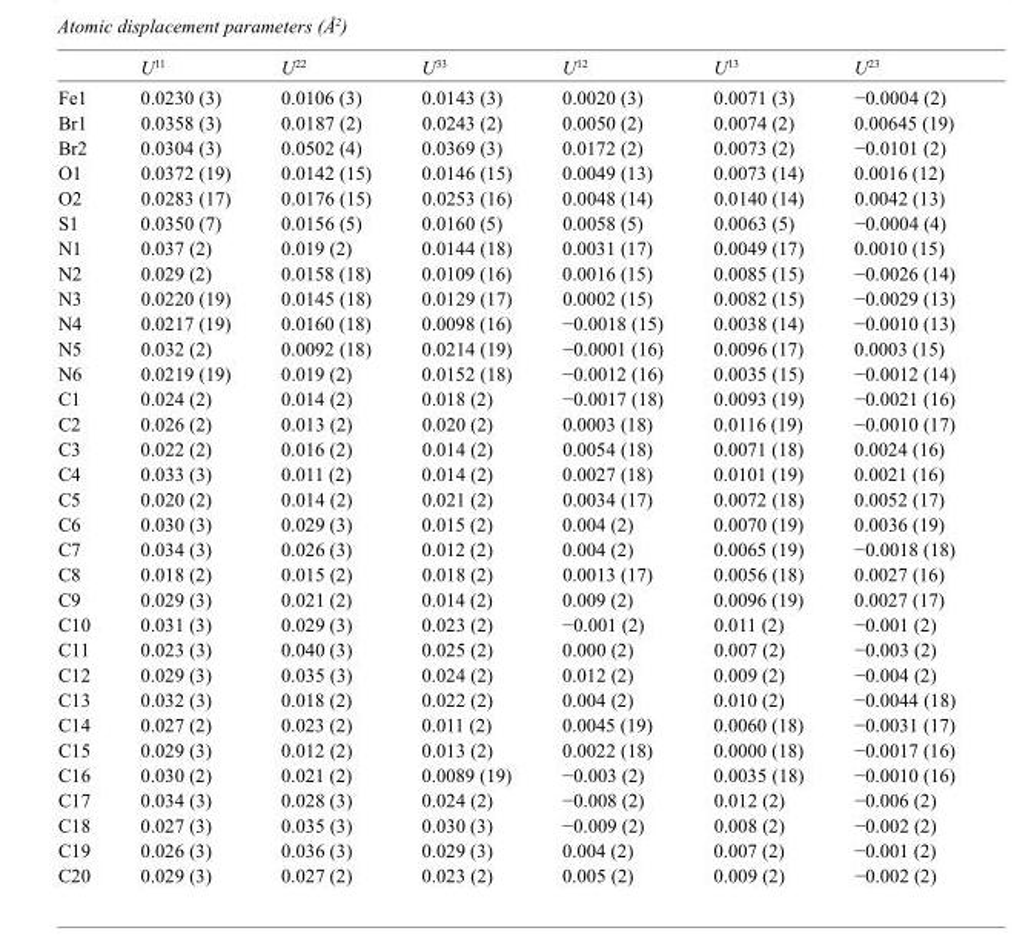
<table><thead><tr><td></td><td>U<sup>11</sup></td><td>U<sup>22</sup></td><td>U<sup>33</sup></td><td>U<sup>12</sup></td><td>U<sup>13</sup></td><td>U<sup>23</sup></td></tr></thead><tbody><tr><td>Fe1</td><td>0.0230 (3)</td><td>0.0106 (3)</td><td>0.0143 (3)</td><td>0.0020 (3)</td><td>0.0071 (3)</td><td>−0.0004 (2)</td></tr><tr><td>Br1</td><td>0.0358 (3)</td><td>0.0187 (2)</td><td>0.0243 (2)</td><td>0.0050 (2)</td><td>0.0074 (2)</td><td>0.00645 (19)</td></tr><tr><td>Br2</td><td>0.0304 (3)</td><td>0.0502 (4)</td><td>0.0369 (3)</td><td>0.0172 (2)</td><td>0.0073 (2)</td><td>−0.0101 (2)</td></tr><tr><td>O1</td><td>0.0372 (19)</td><td>0.0142 (15)</td><td>0.0146 (15)</td><td>0.0049 (13)</td><td>0.0073 (14)</td><td>0.0016 (12)</td></tr><tr><td>O2</td><td>0.0283 (17)</td><td>0.0176 (15)</td><td>0.0253 (16)</td><td>0.0048 (14)</td><td>0.0140 (14)</td><td>0.0042 (13)</td></tr><tr><td>S1</td><td>0.0350 (7)</td><td>0.0156 (5)</td><td>0.0160 (5)</td><td>0.0058 (5)</td><td>0.0063 (5)</td><td>−0.0004 (4)</td></tr><tr><td>N1</td><td>0.037 (2)</td><td>0.019 (2)</td><td>0.0144 (18)</td><td>0.0031 (17)</td><td>0.0049 (17)</td><td>0.0010 (15)</td></tr><tr><td>N2</td><td>0.029 (2)</td><td>0.0158 (18)</td><td>0.0109 (16)</td><td>0.0016 (15)</td><td>0.0085 (15)</td><td>−0.0026 (14)</td></tr><tr><td>N3</td><td>0.0220 (19)</td><td>0.0145 (18)</td><td>0.0129 (17)</td><td>0.0002 (15)</td><td>0.0082 (15)</td><td>−0.0029 (13)</td></tr><tr><td>N4</td><td>0.0217 (19)</td><td>0.0160 (18)</td><td>0.0098 (16)</td><td>−0.0018 (15)</td><td>0.0038 (14)</td><td>−0.0010 (13)</td></tr><tr><td>N5</td><td>0.032 (2)</td><td>0.0092 (18)</td><td>0.0214 (19)</td><td>−0.0001 (16)</td><td>0.0096 (17)</td><td>0.0003 (15)</td></tr><tr><td>N6</td><td>0.0219 (19)</td><td>0.019 (2)</td><td>0.0152 (18)</td><td>−0.0012 (16)</td><td>0.0035 (15)</td><td>−0.0012 (14)</td></tr><tr><td>C1</td><td>0.024 (2)</td><td>0.014 (2)</td><td>0.018 (2)</td><td>−0.0017 (18)</td><td>0.0093 (19)</td><td>−0.0021 (16)</td></tr><tr><td>C2</td><td>0.026 (2)</td><td>0.013 (2)</td><td>0.020 (2)</td><td>0.0003 (18)</td><td>0.0116 (19)</td><td>−0.0010 (17)</td></tr><tr><td>C3</td><td>0.022 (2)</td><td>0.016 (2)</td><td>0.014 (2)</td><td>0.0054 (18)</td><td>0.0071 (18)</td><td>0.0024 (16)</td></tr><tr><td>C4</td><td>0.033 (3)</td><td>0.011 (2)</td><td>0.014 (2)</td><td>0.0027 (18)</td><td>0.0101 (19)</td><td>0.0021 (16)</td></tr><tr><td>C5</td><td>0.020 (2)</td><td>0.014 (2)</td><td>0.021 (2)</td><td>0.0034 (17)</td><td>0.0072 (18)</td><td>0.0052 (17)</td></tr><tr><td>C6</td><td>0.030 (3)</td><td>0.029 (3)</td><td>0.015 (2)</td><td>0.004 (2)</td><td>0.0070 (19)</td><td>0.0036 (19)</td></tr><tr><td>C7</td><td>0.034 (3)</td><td>0.026 (3)</td><td>0.012 (2)</td><td>0.004 (2)</td><td>0.0065 (19)</td><td>−0.0018 (18)</td></tr><tr><td>C8</td><td>0.018 (2)</td><td>0.015 (2)</td><td>0.018 (2)</td><td>0.0013 (17)</td><td>0.0056 (18)</td><td>0.0027 (16)</td></tr><tr><td>C9</td><td>0.029 (3)</td><td>0.021 (2)</td><td>0.014 (2)</td><td>0.009 (2)</td><td>0.0096 (19)</td><td>0.0027 (17)</td></tr><tr><td>C10</td><td>0.031 (3)</td><td>0.029 (3)</td><td>0.023 (2)</td><td>−0.001 (2)</td><td>0.011 (2)</td><td>−0.001 (2)</td></tr><tr><td>C11</td><td>0.023 (3)</td><td>0.040 (3)</td><td>0.025 (2)</td><td>0.000 (2)</td><td>0.007 (2)</td><td>−0.003 (2)</td></tr><tr><td>C12</td><td>0.029 (3)</td><td>0.035 (3)</td><td>0.024 (2)</td><td>0.012 (2)</td><td>0.009 (2)</td><td>−0.004 (2)</td></tr><tr><td>C13</td><td>0.032 (3)</td><td>0.018 (2)</td><td>0.022 (2)</td><td>0.004 (2)</td><td>0.010 (2)</td><td>−0.0044 (18)</td></tr><tr><td>C14</td><td>0.027 (2)</td><td>0.023 (2)</td><td>0.011 (2)</td><td>0.0045 (19)</td><td>0.0060 (18)</td><td>−0.0031 (17)</td></tr><tr><td>C15</td><td>0.029 (3)</td><td>0.012 (2)</td><td>0.013 (2)</td><td>0.0022 (18)</td><td>0.0000 (18)</td><td>−0.0017 (16)</td></tr><tr><td>C16</td><td>0.030 (2)</td><td>0.021 (2)</td><td>0.0089 (19)</td><td>−0.003 (2)</td><td>0.0035 (18)</td><td>−0.0010 (16)</td></tr><tr><td>C17</td><td>0.034 (3)</td><td>0.028 (3)</td><td>0.024 (2)</td><td>−0.008 (2)</td><td>0.012 (2)</td><td>−0.006 (2)</td></tr><tr><td>C18</td><td>0.027 (3)</td><td>0.035 (3)</td><td>0.030 (3)</td><td>−0.009 (2)</td><td>0.008 (2)</td><td>−0.002 (2)</td></tr><tr><td>C19</td><td>0.026 (3)</td><td>0.036 (3)</td><td>0.029 (3)</td><td>0.004 (2)</td><td>0.007 (2)</td><td>−0.001 (2)</td></tr><tr><td>C20</td><td>0.029 (3)</td><td>0.027 (2)</td><td>0.023 (2)</td><td>0.005 (2)</td><td>0.009 (2)</td><td>−0.002 (2)</td></tr></tbody></table>